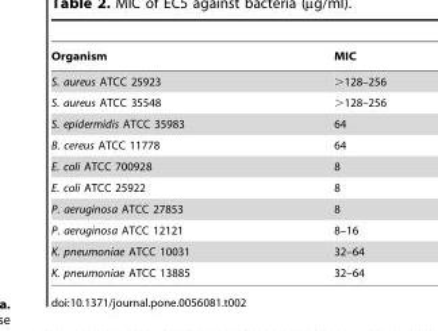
<table><thead><tr><td>Organism</td><td>MIC</td></tr></thead><tbody><tr><td>S. aureus ATCC 25923</td><td>&gt;128–256</td></tr><tr><td>S. aureus ATCC 35548</td><td>&gt;128–256</td></tr><tr><td>S. epidermidis ATCC 35983</td><td>64</td></tr><tr><td>B. cereus ATCC 11778</td><td>64</td></tr><tr><td>E. coli ATCC 700928</td><td>8</td></tr><tr><td>E. coli ATCC 25922</td><td>8</td></tr><tr><td>P. aeruginosa ATCC 27853</td><td>8</td></tr><tr><td>P. aeruginosa ATCC 12121</td><td>8–16</td></tr><tr><td>K. pneumoniae ATCC 10031</td><td>32–64</td></tr><tr><td>K. pneumoniae ATCC 13885</td><td>32–64</td></tr></tbody></table>